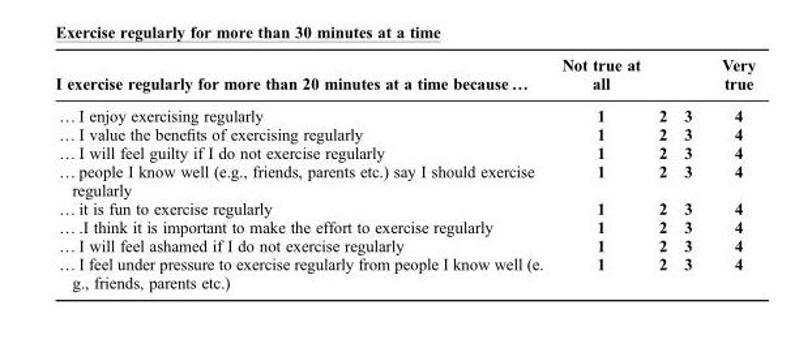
<table><thead><tr><td>I exercise regularly for more than 20 minutes at a time because …</td><td>Not true at all</td><td></td><td></td><td>Very true</td></tr></thead><tbody><tr><td>… I enjoy exercising regularly</td><td>1</td><td>2</td><td>3</td><td>4</td></tr><tr><td>… I value the benefits of exercising regularly</td><td>1</td><td>2</td><td>3</td><td>4</td></tr><tr><td>… I will feel guilty if I do not exercise regularly</td><td>1</td><td>2</td><td>3</td><td>4</td></tr><tr><td>… people I know well (e.g., friends, parents etc.) say I should exercise regularly</td><td>1</td><td>2</td><td>3</td><td>4</td></tr><tr><td>… it is fun to exercise regularly</td><td>1</td><td>2</td><td>3</td><td>4</td></tr><tr><td>… .I think it is important to make the effort to exercise regularly</td><td>1</td><td>2</td><td>3</td><td>4</td></tr><tr><td>… I will feel ashamed if I do not exercise regularly</td><td>1</td><td>2</td><td>3</td><td>4</td></tr><tr><td>… I feel under pressure to exercise regularly from people I know well (e. g., friends, parents etc.)</td><td>1</td><td>2</td><td>3</td><td>4</td></tr></tbody></table>